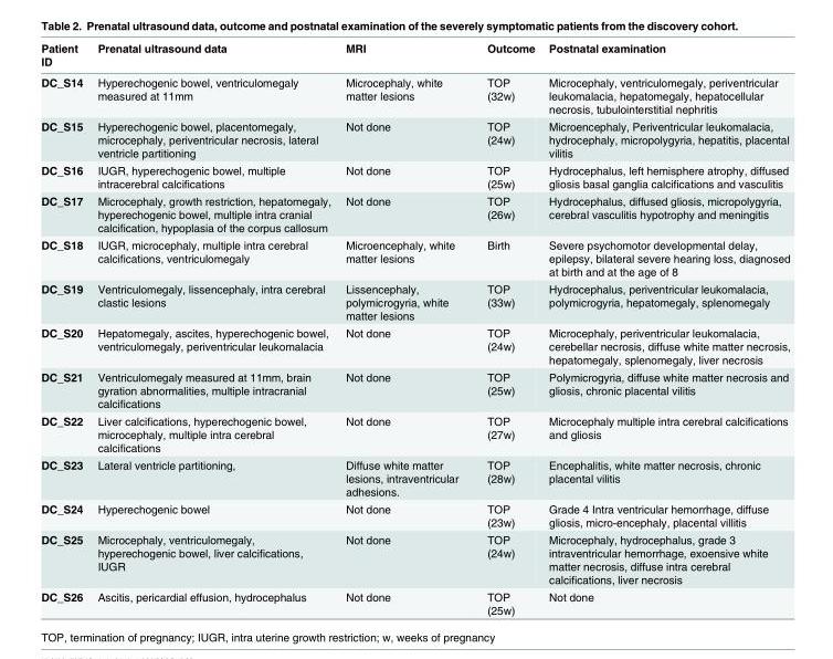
<table><thead><tr><td>Patient ID</td><td>Prenatal ultrasound data</td><td>MRI</td><td>Outcome</td><td>Postnatal examination</td></tr></thead><tbody><tr><td>DC_S14</td><td>Hyperechogenic bowel, ventriculomegaly measured at 11mm</td><td>Microcephaly, white matter lesions</td><td>TOP (32w)</td><td>Microcephaly, ventriculomegaly, periventricular leukomalacia, hepatomegaly, hepatocellular necrosis, tubulointerstitial nephritis</td></tr><tr><td>DC_S15</td><td>Hyperechogenic bowel, placentomegaly, microcephaly, periventricular necrosis, lateral ventricle partitioning</td><td>Not done</td><td>TOP (24w)</td><td>Microencephaly, Periventricular leukomalacia, hydrocephaly, micropolygyria, hepatitis, placental vilitis</td></tr><tr><td>DC_S16</td><td>IUGR, hyperechogenic bowel, multiple intracerebral calcifications</td><td>Not done</td><td>TOP (25w)</td><td>Hydrocephalus, left hemisphere atrophy, diffused gliosis basal ganglia calcifications and vasculitis</td></tr><tr><td>DC_S17</td><td>Microcephaly, growth restriction, hepatomegaly, hyperechogenic bowel, multiple intra cranial calcification, hypoplasia of the corpus callosum</td><td>Not done</td><td>TOP (26w)</td><td>Hydrocephalus, diffused gliosis, micropolygyria, cerebral vasculitis hypotrophy and meningitis</td></tr><tr><td>DC_S18</td><td>IUGR, microcephaly, multiple intra cerebral calcifications, ventriculomegaly</td><td>Microencephaly, white matter lesions</td><td>Birth</td><td>Severe psychomotor developmental delay, epilepsy, bilateral severe hearing loss, diagnosed at birth and at the age of 8</td></tr><tr><td>DC_S19</td><td>Ventriculomegaly, lissencephaly, intra cerebral clastic lesions</td><td>Lissencephaly, polymicrogyria, white matter lesions</td><td>TOP (33w)</td><td>Hydrocephalus, periventricular leukomalacia, polymicrogyria, hepatomegaly, splenomegaly</td></tr><tr><td>DC_S20</td><td>Hepatomegaly, ascites, hyperechogenic bowel, ventriculomegaly, periventricular leukomalacia</td><td>Not done</td><td>TOP (24w)</td><td>Microcephaly, periventricular leukomalacia, cerebellar necrosis, diffuse white matter necrosis, hepatomegaly, splenomegaly, liver necrosis</td></tr><tr><td>DC_S21</td><td>Ventriculomegaly measured at 11mm, brain gyration abnormalities, multiple intracranial calcifications</td><td>Not done</td><td>TOP (25w)</td><td>Polymicrogyria, diffuse white matter necrosis and gliosis, chronic placental vilitis</td></tr><tr><td>DC_S22</td><td>Liver calcifications, hyperechogenic bowel, microcephaly, multiple intra cerebral calcifications</td><td>Not done</td><td>TOP (27w)</td><td>Microcephaly multiple intra cerebral calcifications and gliosis</td></tr><tr><td>DC_S23</td><td>Lateral ventricle partitioning,</td><td>Diffuse white matter lesions, intraventricular adhesions.</td><td>TOP (28w)</td><td>Encephalitis, white matter necrosis, chronic placental vilitis</td></tr><tr><td>DC_S24</td><td>Hyperechogenic bowel</td><td>Not done</td><td>TOP (23w)</td><td>Grade 4 Intra ventricular hemorrhage, diffuse gliosis, micro-encephaly, placental villitis</td></tr><tr><td>DC_S25</td><td>Microcephaly, ventriculomegaly, hyperechogenic bowel, liver calcifications, IUGR</td><td>Not done</td><td>TOP (24w)</td><td>Microcephaly, hydrocephalus, grade 3 intraventricular hemorrhage, exoensive white matter necrosis, diffuse intra cerebral calcifications, liver necrosis</td></tr><tr><td>DC_S26</td><td>Ascitis, pericardial effusion, hydrocephalus</td><td>Not done</td><td>TOP (25w)</td><td>Not done</td></tr></tbody></table>